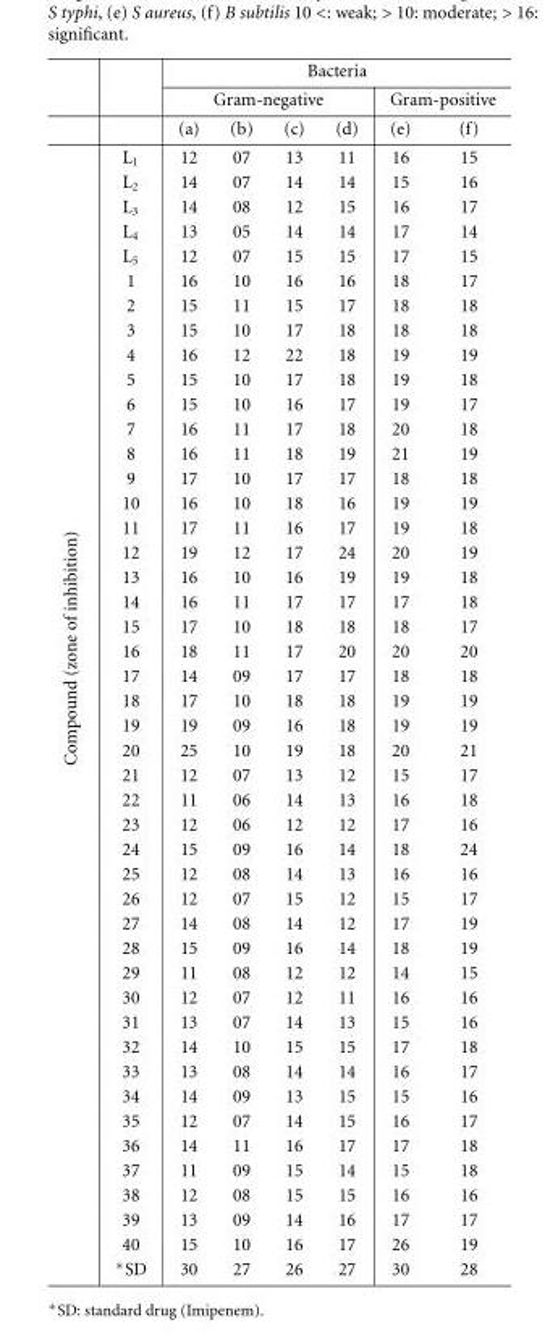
<table><thead><tr><td rowspan="3"></td><td rowspan="3"></td><td colspan="6">Bacteria</td></tr><tr><td colspan="4">Gram-negative</td><td colspan="2">Gram-positive</td></tr><tr><td>(a)</td><td>(b)</td><td>(c)</td><td>(d)</td><td>(e)</td><td>(f)</td></tr></thead><tbody><tr><td rowspan="46">Compound (zone of inhibition)</td><td>L<sub>1</sub></td><td>12</td><td>07</td><td>13</td><td>11</td><td>16</td><td>15</td></tr><tr><td>L<sub>2</sub></td><td>14</td><td>07</td><td>14</td><td>14</td><td>15</td><td>16</td></tr><tr><td>L<sub>3</sub></td><td>14</td><td>08</td><td>12</td><td>15</td><td>16</td><td>17</td></tr><tr><td>L<sub>4</sub></td><td>13</td><td>05</td><td>14</td><td>14</td><td>17</td><td>14</td></tr><tr><td>L<sub>5</sub></td><td>12</td><td>07</td><td>15</td><td>15</td><td>17</td><td>15</td></tr><tr><td>1</td><td>16</td><td>10</td><td>16</td><td>16</td><td>18</td><td>17</td></tr><tr><td>2</td><td>15</td><td>11</td><td>15</td><td>17</td><td>18</td><td>18</td></tr><tr><td>3</td><td>15</td><td>10</td><td>17</td><td>18</td><td>18</td><td>18</td></tr><tr><td>4</td><td>16</td><td>12</td><td>22</td><td>18</td><td>19</td><td>19</td></tr><tr><td>5</td><td>15</td><td>10</td><td>17</td><td>18</td><td>19</td><td>18</td></tr><tr><td>6</td><td>15</td><td>10</td><td>16</td><td>17</td><td>19</td><td>17</td></tr><tr><td>7</td><td>16</td><td>11</td><td>17</td><td>18</td><td>20</td><td>18</td></tr><tr><td>8</td><td>16</td><td>11</td><td>18</td><td>19</td><td>21</td><td>19</td></tr><tr><td>9</td><td>17</td><td>10</td><td>17</td><td>17</td><td>18</td><td>18</td></tr><tr><td>10</td><td>16</td><td>10</td><td>18</td><td>16</td><td>19</td><td>19</td></tr><tr><td>11</td><td>17</td><td>11</td><td>16</td><td>17</td><td>19</td><td>18</td></tr><tr><td>12</td><td>19</td><td>12</td><td>17</td><td>24</td><td>20</td><td>19</td></tr><tr><td>13</td><td>16</td><td>10</td><td>16</td><td>19</td><td>19</td><td>18</td></tr><tr><td>14</td><td>16</td><td>11</td><td>17</td><td>17</td><td>17</td><td>18</td></tr><tr><td>15</td><td>17</td><td>10</td><td>18</td><td>18</td><td>18</td><td>17</td></tr><tr><td>16</td><td>18</td><td>11</td><td>17</td><td>20</td><td>20</td><td>20</td></tr><tr><td>17</td><td>14</td><td>09</td><td>17</td><td>17</td><td>18</td><td>18</td></tr><tr><td>18</td><td>17</td><td>10</td><td>18</td><td>18</td><td>19</td><td>19</td></tr><tr><td>19</td><td>19</td><td>09</td><td>16</td><td>18</td><td>19</td><td>19</td></tr><tr><td>20</td><td>25</td><td>10</td><td>19</td><td>18</td><td>20</td><td>21</td></tr><tr><td>21</td><td>12</td><td>07</td><td>13</td><td>12</td><td>15</td><td>17</td></tr><tr><td>22</td><td>11</td><td>06</td><td>14</td><td>13</td><td>16</td><td>18</td></tr><tr><td>23</td><td>12</td><td>06</td><td>12</td><td>12</td><td>17</td><td>16</td></tr><tr><td>24</td><td>15</td><td>09</td><td>16</td><td>14</td><td>18</td><td>24</td></tr><tr><td>25</td><td>12</td><td>08</td><td>14</td><td>13</td><td>16</td><td>16</td></tr><tr><td>26</td><td>12</td><td>07</td><td>15</td><td>12</td><td>15</td><td>17</td></tr><tr><td>27</td><td>14</td><td>08</td><td>14</td><td>12</td><td>17</td><td>19</td></tr><tr><td>28</td><td>15</td><td>09</td><td>16</td><td>14</td><td>18</td><td>19</td></tr><tr><td>29</td><td>11</td><td>08</td><td>12</td><td>12</td><td>14</td><td>15</td></tr><tr><td>30</td><td>12</td><td>07</td><td>12</td><td>11</td><td>16</td><td>16</td></tr><tr><td>31</td><td>13</td><td>07</td><td>14</td><td>13</td><td>15</td><td>16</td></tr><tr><td>32</td><td>14</td><td>10</td><td>15</td><td>15</td><td>17</td><td>18</td></tr><tr><td>33</td><td>13</td><td>08</td><td>14</td><td>14</td><td>16</td><td>17</td></tr><tr><td>34</td><td>14</td><td>09</td><td>13</td><td>15</td><td>15</td><td>16</td></tr><tr><td>35</td><td>12</td><td>07</td><td>14</td><td>15</td><td>16</td><td>17</td></tr><tr><td>36</td><td>14</td><td>11</td><td>16</td><td>17</td><td>17</td><td>18</td></tr><tr><td>37</td><td>11</td><td>09</td><td>15</td><td>14</td><td>15</td><td>18</td></tr><tr><td>38</td><td>12</td><td>08</td><td>15</td><td>15</td><td>16</td><td>16</td></tr><tr><td>39</td><td>13</td><td>09</td><td>14</td><td>16</td><td>17</td><td>17</td></tr><tr><td>40</td><td>15</td><td>10</td><td>16</td><td>17</td><td>26</td><td>19</td></tr><tr><td>∗SD</td><td>30</td><td>27</td><td>26</td><td>27</td><td>30</td><td>28</td></tr></tbody></table>